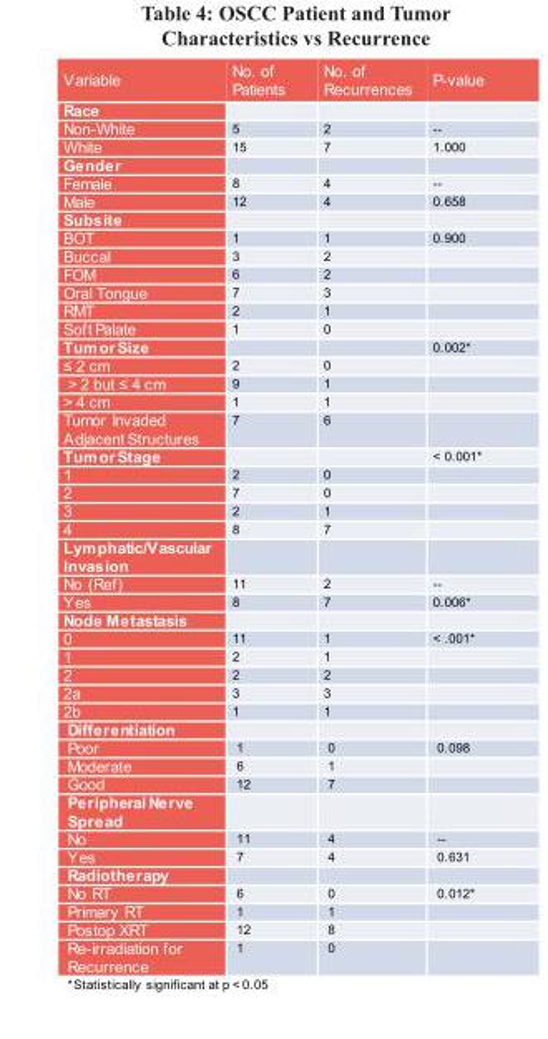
<table><thead><tr><td>Variable</td><td>No. of Patients</td><td>No. of Recurrences</td><td>P-value</td></tr></thead><tbody><tr><td colspan="4">Race</td></tr><tr><td>Non-White</td><td>5</td><td>2</td><td>--</td></tr><tr><td>White</td><td>15</td><td>7</td><td>1.000</td></tr><tr><td colspan="4">Gender</td></tr><tr><td>Female</td><td>8</td><td>4</td><td>--</td></tr><tr><td>Male</td><td>12</td><td>4</td><td>0.658</td></tr><tr><td colspan="4">Subsite</td></tr><tr><td>BOT</td><td>1</td><td>1</td><td>0.900</td></tr><tr><td>Buccal</td><td>3</td><td>2</td><td></td></tr><tr><td>FOM</td><td>6</td><td>2</td><td></td></tr><tr><td>Oral Tongue</td><td>7</td><td>3</td><td></td></tr><tr><td>RMT</td><td>2</td><td>1</td><td></td></tr><tr><td>Soft Palate</td><td>1</td><td>0</td><td></td></tr><tr><td>Tumor Size</td><td></td><td></td><td>0.002*</td></tr><tr><td>≤ 2 cm</td><td>2</td><td>0</td><td></td></tr><tr><td>&gt; 2 but ≤ 4 cm</td><td>9</td><td>1</td><td></td></tr><tr><td>&gt; 4 cm</td><td>1</td><td>1</td><td></td></tr><tr><td>Tumor Invaded Adjacent Structures</td><td>7</td><td>6</td><td></td></tr><tr><td>Tumor Stage</td><td></td><td></td><td>&lt; 0.001*</td></tr><tr><td>1</td><td>2</td><td>0</td><td></td></tr><tr><td>2</td><td>7</td><td>0</td><td></td></tr><tr><td>3</td><td>2</td><td>1</td><td></td></tr><tr><td>4</td><td>8</td><td>7</td><td></td></tr><tr><td colspan="4">Lymphatic/Vascular Invasion</td></tr><tr><td>No (Ref)</td><td>11</td><td>2</td><td>--</td></tr><tr><td>Yes</td><td>8</td><td>7</td><td>0.006*</td></tr><tr><td colspan="4">Node Metastasis</td></tr><tr><td>0</td><td>11</td><td>1</td><td>&lt; .001*</td></tr><tr><td>1</td><td>2</td><td>1</td><td></td></tr><tr><td>2</td><td>2</td><td>2</td><td></td></tr><tr><td>2a</td><td>3</td><td>3</td><td></td></tr><tr><td>2b</td><td>1</td><td>1</td><td></td></tr><tr><td colspan="4">Differentiation</td></tr><tr><td>Poor</td><td>1</td><td>0</td><td>0.098</td></tr><tr><td>Moderate</td><td>6</td><td>1</td><td></td></tr><tr><td>Good</td><td>12</td><td>7</td><td></td></tr><tr><td colspan="4">Peripheral Nerve Spread</td></tr><tr><td>No</td><td>11</td><td>4</td><td>--</td></tr><tr><td>Yes</td><td>7</td><td>4</td><td>0.631</td></tr><tr><td colspan="4">Radiotherapy</td></tr><tr><td>No RT</td><td>6</td><td>0</td><td>0.012*</td></tr><tr><td>Primary RT</td><td>1</td><td>1</td><td></td></tr><tr><td>Postop XRT</td><td>12</td><td>8</td><td></td></tr><tr><td>Re-irradiation for Recurrence</td><td>1</td><td>0</td><td></td></tr></tbody></table>